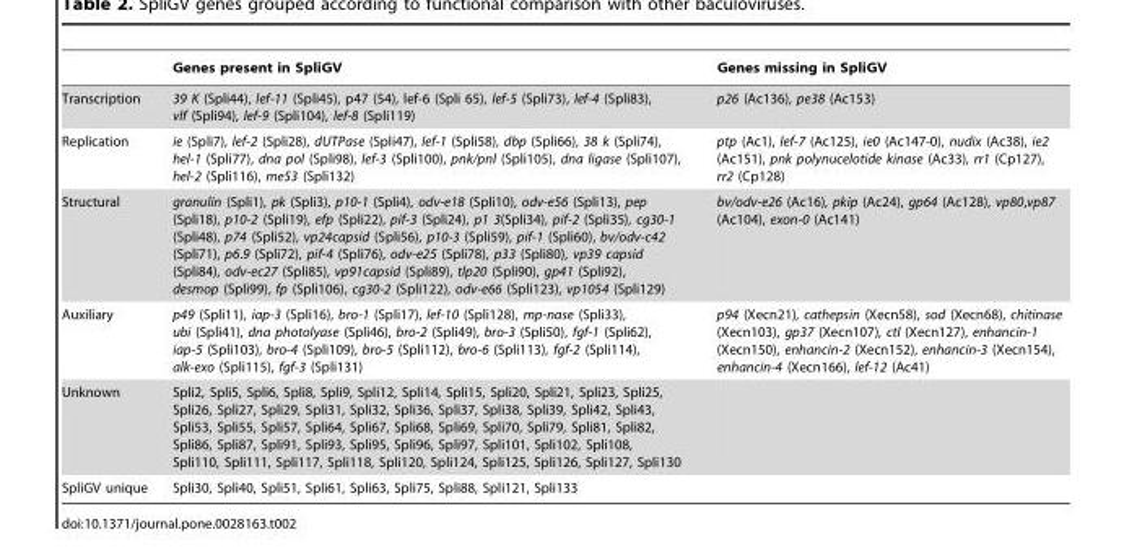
<table><thead><tr><td></td><td>Genes present in SpliGV</td><td>Genes missing in SpliGV</td></tr></thead><tbody><tr><td>Transcription</td><td>39 K (Spli44), lef-11 (Spli45), p47 (54), lef-6 (Spli 65), lef-5 (Spli73), lef-4 (Spli83), vlf (Spli94), lef-9 (Spli104), lef-8 (Spli119)</td><td>p26 (Ac136), pe38 (Ac153)</td></tr><tr><td>Replication</td><td>ie (Spli7), lef-2 (Spli28), dUTPase (Spli47), lef-1 (Spli58), dbp (Spli66), 38 k (Spli74), hel-1 (Spli77), dna pol (Spli98), lef-3 (Spli100), pnk/pnl (Spli105), dna ligase (Spli107), hel-2 (Spli116), me53 (Spli132)</td><td>ptp (Ac1), lef-7 (Ac125), ie0 (Ac147-0), nudix (Ac38), ie2 (Ac151), pnk polynucelotide kinase (Ac33), rr1 (Cp127), rr2 (Cp128)</td></tr><tr><td>Structural</td><td>granulin (Spli1), pk (Spli3), p10-1 (Spli4), odv-e18 (Spli10), odv-e56 (Spli13), pep (Spli18), p10-2 (Spli19), efp (Spli22), pif-3 (Spli24), p1 3(Spli34), pif-2 (Spli35), cg30-1 (Spli48), p74 (Spli52), vp24capsid (Spli56), p10-3 (Spli59), pif-1 (Spli60), bv/odv-c42 (Spli71), p6.9 (Spli72), pif-4 (Spli76), odv-e25 (Spli78), p33 (Spli80), vp39 capsid (Spli84), odv-ec27 (Spli85), vp91capsid (Spli89), tlp20 (Spli90), gp41 (Spli92), desmop (Spli99), fp (Spli106), cg30-2 (Spli122), odv-e66 (Spli123), vp1054 (Spli129)</td><td>bv/odv-e26 (Ac16), pkip (Ac24), gp64 (Ac128), vp80,vp87 (Ac104), exon-0 (Ac141)</td></tr><tr><td>Auxiliary</td><td>p49 (Spli11), iap-3 (Spli16), bro-1 (Spli17), lef-10 (Spli128), mp-nase (Spli33), ubi (Spli41), dna photolyase (Spli46), bro-2 (Spli49), bro-3 (Spli50), fgf-1 (Spli62), iap-5 (Spli103), bro-4 (Spli109), bro-5 (Spli112), bro-6 (Spli113), fgf-2 (Spli114), alk-exo (Spli115), fgf-3 (Spli131)</td><td>p94 (Xecn21), cathepsin (Xecn58), sod (Xecn68), chitinase (Xecn103), gp37 (Xecn107), ctl (Xecn127), enhancin-1 (Xecn150), enhancin-2 (Xecn152), enhancin-3 (Xecn154), enhancin-4 (Xecn166), lef-12 (Ac41)</td></tr><tr><td>Unknown</td><td>Spli2, Spli5, Spli6, Spli8, Spli9, Spli12, Spli14, Spli15, Spli20, Spli21, Spli23, Spli25, Spli26, Spli27, Spli29, Spli31, Spli32, Spli36, Spli37, Spli38, Spli39, Spli42, Spli43, Spli53, Spli55, Spli57, Spli64, Spli67, Spli68, Spli69, Spli70, Spli79, Spli81, Spli82, Spli86, Spli87, Spli91, Spli93, Spli95, Spli96, Spli97, Spli101, Spli102, Spli108, Spli110, Spli111, Spli117, Spli118, Spli120, Spli124, Spli125, Spli126, Spli127, Spli130</td><td></td></tr><tr><td>SpliGV unique</td><td>Spli30, Spli40, Spli51, Spli61, Spli63, Spli75, Spli88, Spli121, Spli133</td><td></td></tr></tbody></table>